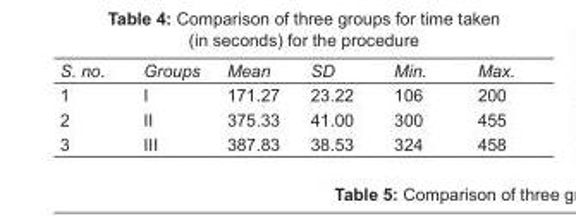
<table><tbody><tr><td>S. no.</td><td>Groups</td><td>Mean</td><td>SD</td><td>Min.</td><td>Max.</td></tr><tr><td>1</td><td>I</td><td>171.27</td><td>23.22</td><td>106</td><td>200</td></tr><tr><td>2</td><td>II</td><td>375.33</td><td>41.00</td><td>300</td><td>455</td></tr><tr><td>3</td><td>III</td><td>387.83</td><td>38.53</td><td>324</td><td>458</td></tr></tbody></table>